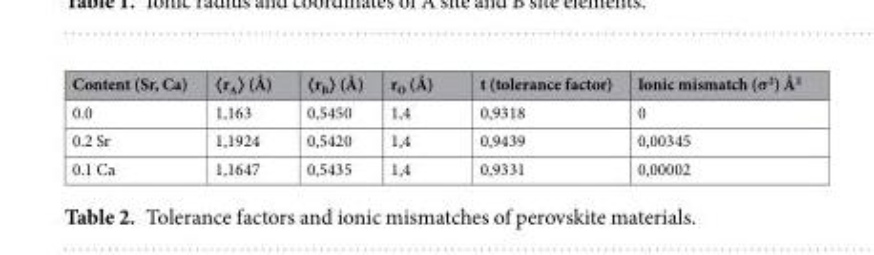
<table><thead><tr><td>Content (Sr, Ca)</td><td>〈r<sub>A</sub>〉 (Å)</td><td>〈r<sub>B</sub>〉 (Å)</td><td>r<sub>O</sub> (Å)</td><td>t (tolerance factor)</td><td>Ionic mismatch (σ<sup>2</sup>) Å<sup>2</sup></td></tr></thead><tbody><tr><td>0.0</td><td>1,163</td><td>0,5450</td><td>1,4</td><td>0,9318</td><td>0</td></tr><tr><td>0.2 Sr</td><td>1,1924</td><td>0,5420</td><td>1,4</td><td>0,9439</td><td>0,00345</td></tr><tr><td>0.1 Ca</td><td>1,1647</td><td>0,5435</td><td>1,4</td><td>0,9331</td><td>0,00002</td></tr></tbody></table>